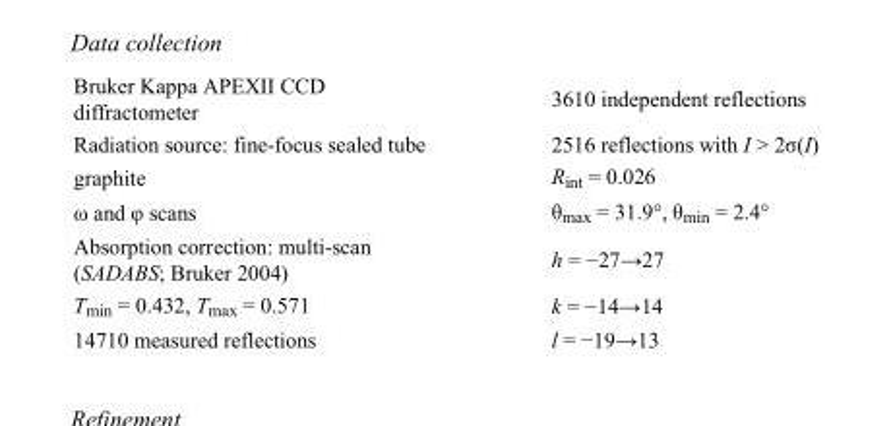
<table><tbody><tr><td>Bruker Kappa APEXII CCD diffractometer</td><td>3610 independent reflections</td></tr><tr><td>Radiation source: fine-focus sealed tube</td><td>2516 reflections with I &gt; 2σ(I)</td></tr><tr><td>graphite</td><td>R<sub>int</sub> = 0.026</td></tr><tr><td>ω and φ scans</td><td>θ<sub>max</sub> = 31.9°, θ<sub>min</sub> = 2.4°</td></tr><tr><td>Absorption correction: multi-scan (SADABS; Bruker 2004)</td><td>h = −27→27</td></tr><tr><td>T<sub>min</sub> = 0.432, T<sub>max</sub> = 0.571</td><td>k = −14→14</td></tr><tr><td>14710 measured reflections</td><td>l = −19→13</td></tr></tbody></table>